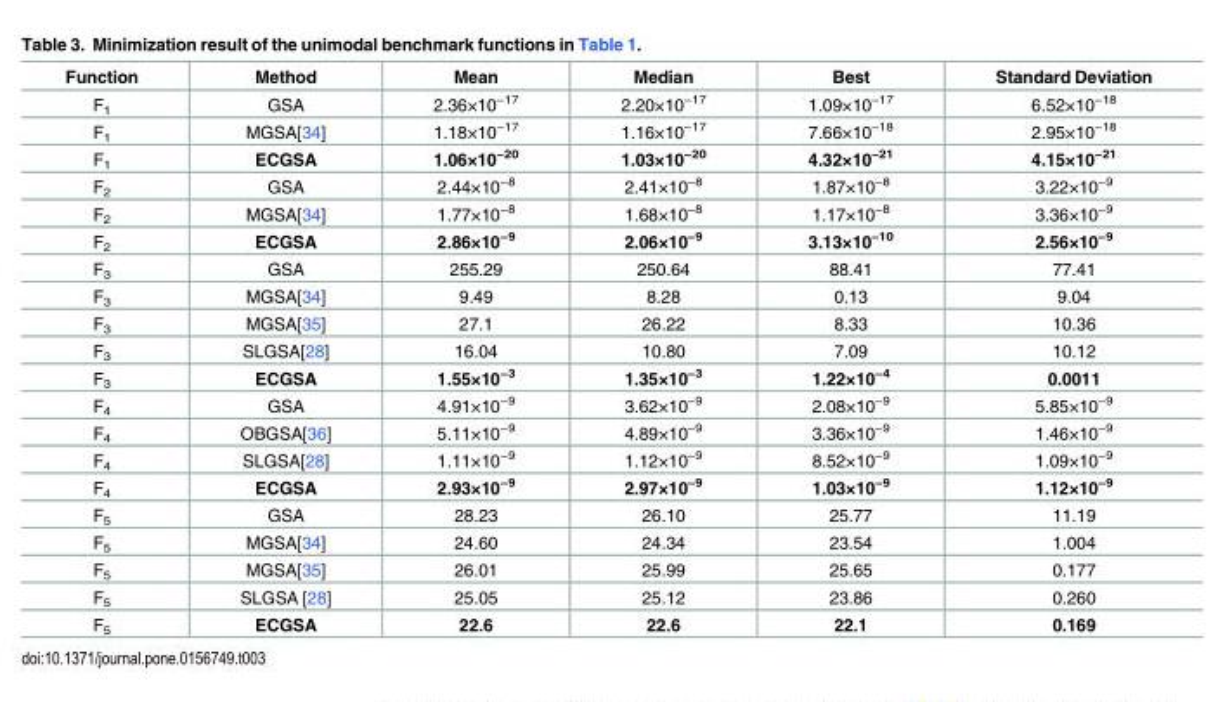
<table><thead><tr><td>Function</td><td>Method</td><td>Mean</td><td>Median</td><td>Best</td><td>Standard Deviation</td></tr></thead><tbody><tr><td>F<sub>1</sub></td><td>GSA</td><td>2.36×10<sup>−17</sup></td><td>2.20×10<sup>−17</sup></td><td>1.09×10<sup>−17</sup></td><td>6.52×10<sup>−18</sup></td></tr><tr><td>F<sub>1</sub></td><td>MGSA[34]</td><td>1.18×10<sup>−17</sup></td><td>1.16×10<sup>−17</sup></td><td>7.66×10<sup>−18</sup></td><td>2.95×10<sup>−18</sup></td></tr><tr><td>F<sub>1</sub></td><td>ECGSA</td><td>1.06×10<sup>−20</sup></td><td>1.03×10<sup>−20</sup></td><td>4.32×10<sup>−21</sup></td><td>4.15×10<sup>−21</sup></td></tr><tr><td>F<sub>2</sub></td><td>GSA</td><td>2.44×10<sup>−8</sup></td><td>2.41×10<sup>−8</sup></td><td>1.87×10<sup>−8</sup></td><td>3.22×10<sup>−9</sup></td></tr><tr><td>F<sub>2</sub></td><td>MGSA[34]</td><td>1.77×10<sup>−8</sup></td><td>1.68×10<sup>−8</sup></td><td>1.17×10<sup>−8</sup></td><td>3.36×10<sup>−9</sup></td></tr><tr><td>F<sub>2</sub></td><td>ECGSA</td><td>2.86×10<sup>−9</sup></td><td>2.06×10<sup>−9</sup></td><td>3.13×10<sup>−10</sup></td><td>2.56×10<sup>−9</sup></td></tr><tr><td>F<sub>3</sub></td><td>GSA</td><td>255.29</td><td>250.64</td><td>88.41</td><td>77.41</td></tr><tr><td>F<sub>3</sub></td><td>MGSA[34]</td><td>9.49</td><td>8.28</td><td>0.13</td><td>9.04</td></tr><tr><td>F<sub>3</sub></td><td>MGSA[35]</td><td>27.1</td><td>26.22</td><td>8.33</td><td>10.36</td></tr><tr><td>F<sub>3</sub></td><td>SLGSA[28]</td><td>16.04</td><td>10.80</td><td>7.09</td><td>10.12</td></tr><tr><td>F<sub>3</sub></td><td>ECGSA</td><td>1.55×10<sup>−3</sup></td><td>1.35×10<sup>−3</sup></td><td>1.22×10<sup>−4</sup></td><td>0.0011</td></tr><tr><td>F<sub>4</sub></td><td>GSA</td><td>4.91×10<sup>−9</sup></td><td>3.62×10<sup>−9</sup></td><td>2.08×10<sup>−9</sup></td><td>5.85×10<sup>−9</sup></td></tr><tr><td>F<sub>4</sub></td><td>OBGSA[36]</td><td>5.11×10<sup>−9</sup></td><td>4.89×10<sup>−9</sup></td><td>3.36×10<sup>−9</sup></td><td>1.46×10<sup>−9</sup></td></tr><tr><td>F<sub>4</sub></td><td>SLGSA[28]</td><td>1.11×10<sup>−9</sup></td><td>1.12×10<sup>−9</sup></td><td>8.52×10<sup>−9</sup></td><td>1.09×10<sup>−9</sup></td></tr><tr><td>F<sub>4</sub></td><td>ECGSA</td><td>2.93×10<sup>−9</sup></td><td>2.97×10<sup>−9</sup></td><td>1.03×10<sup>−9</sup></td><td>1.12×10<sup>−9</sup></td></tr><tr><td>F<sub>5</sub></td><td>GSA</td><td>28.23</td><td>26.10</td><td>25.77</td><td>11.19</td></tr><tr><td>F<sub>5</sub></td><td>MGSA[34]</td><td>24.60</td><td>24.34</td><td>23.54</td><td>1.004</td></tr><tr><td>F<sub>5</sub></td><td>MGSA[35]</td><td>26.01</td><td>25.99</td><td>25.65</td><td>0.177</td></tr><tr><td>F<sub>5</sub></td><td>SLGSA [28]</td><td>25.05</td><td>25.12</td><td>23.86</td><td>0.260</td></tr><tr><td>F<sub>5</sub></td><td>ECGSA</td><td>22.6</td><td>22.6</td><td>22.1</td><td>0.169</td></tr></tbody></table>